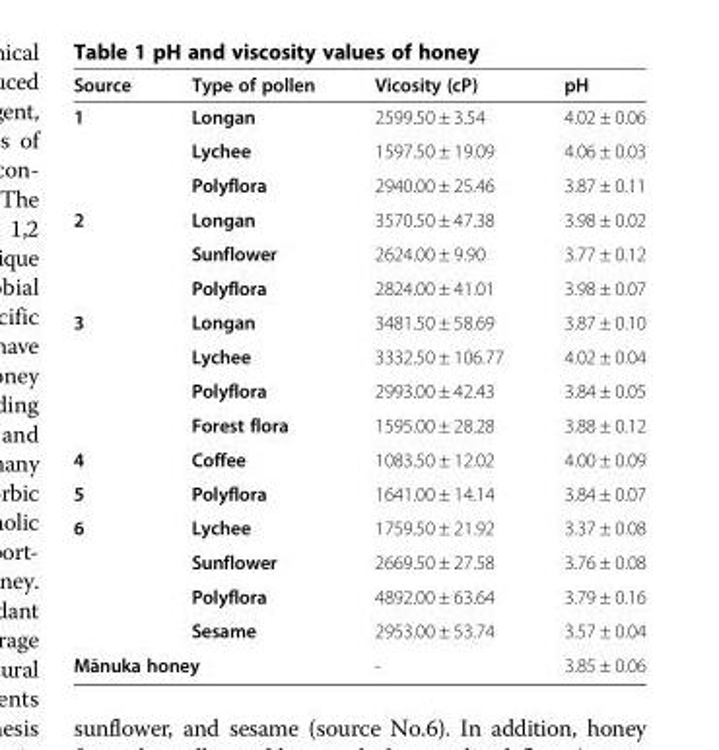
<table><thead><tr><td>Source</td><td>Type of pollen</td><td>Vicosity (cP)</td><td>pH</td></tr></thead><tbody><tr><td rowspan="3">1</td><td>Longan</td><td>2599.50 ± 3.54</td><td>4.02 ± 0.06</td></tr><tr><td>Lychee</td><td>1597.50 ± 19.09</td><td>4.06 ± 0.03</td></tr><tr><td>Polyflora</td><td>2940.00 ± 25.46</td><td>3.87 ± 0.11</td></tr><tr><td rowspan="3">2</td><td>Longan</td><td>3570.50 ± 47.38</td><td>3.98 ± 0.02</td></tr><tr><td>Sunflower</td><td>2624.00 ± 9.90</td><td>3.77 ± 0.12</td></tr><tr><td>Polyflora</td><td>2824.00 ± 41.01</td><td>3.98 ± 0.07</td></tr><tr><td rowspan="4">3</td><td>Longan</td><td>3481.50 ± 58.69</td><td>3.87 ± 0.10</td></tr><tr><td>Lychee</td><td>3332.50 ± 106.77</td><td>4.02 ± 0.04</td></tr><tr><td>Polyflora</td><td>2993.00 ± 42.43</td><td>3.84 ± 0.05</td></tr><tr><td>Forest flora</td><td>1595.00 ± 28.28</td><td>3.88 ± 0.12</td></tr><tr><td>4</td><td>Coffee</td><td>1083.50 ± 12.02</td><td>4.00 ± 0.09</td></tr><tr><td>5</td><td>Polyflora</td><td>1641.00 ± 14.14</td><td>3.84 ± 0.07</td></tr><tr><td rowspan="4">6</td><td>Lychee</td><td>1759.50 ± 21.92</td><td>3.37 ± 0.08</td></tr><tr><td>Sunflower</td><td>2669.50 ± 27.58</td><td>3.76 ± 0.08</td></tr><tr><td>Polyflora</td><td>4892.00 ± 63.64</td><td>3.79 ± 0.16</td></tr><tr><td>Sesame</td><td>2953.00 ± 53.74</td><td>3.57 ± 0.04</td></tr><tr><td colspan="2">Mānuka honey</td><td>-</td><td>3.85 ± 0.06</td></tr></tbody></table>